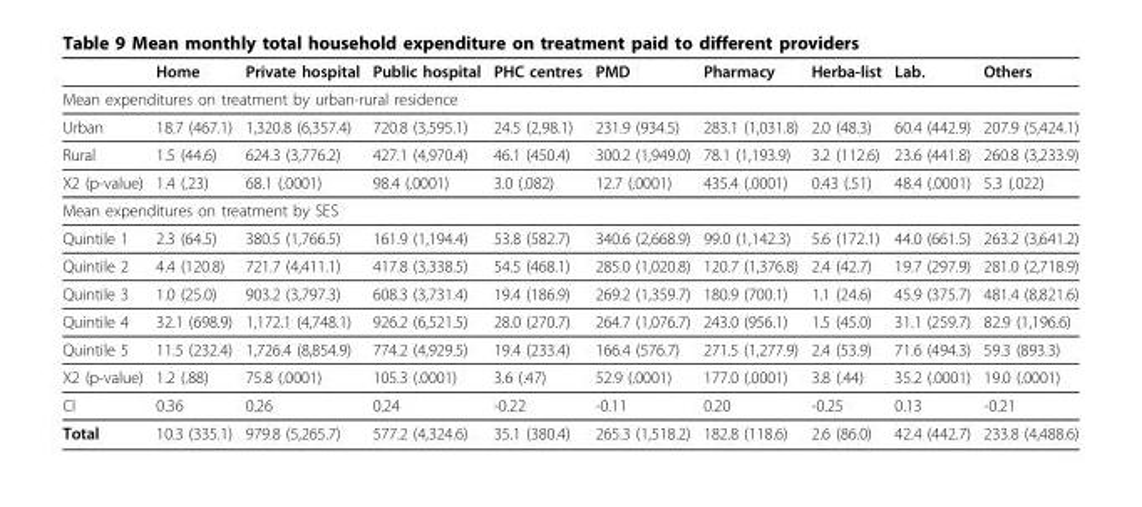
<table><thead><tr><td></td><td>Home</td><td>Private hospital</td><td>Public hospital</td><td>PHC centres</td><td>PMD</td><td>Pharmacy</td><td>Herba-list</td><td>Lab.</td><td>Others</td></tr></thead><tbody><tr><td colspan="10">Mean expenditures on treatment by urban-rural residence</td></tr><tr><td>Urban</td><td>18.7 (467.1)</td><td>1,320.8 (6,357.4)</td><td>720.8 (3,595.1)</td><td>24.5 (2,98.1)</td><td>231.9 (934.5)</td><td>283.1 (1,031.8)</td><td>2.0 (48.3)</td><td>60.4 (442.9)</td><td>207.9 (5,424.1)</td></tr><tr><td>Rural</td><td>1.5 (44.6)</td><td>624.3 (3,776.2)</td><td>427.1 (4,970.4)</td><td>46.1 (450.4)</td><td>300.2 (1,949.0)</td><td>78.1 (1,193.9)</td><td>3.2 (112.6)</td><td>23.6 (441.8)</td><td>260.8 (3,233.9)</td></tr><tr><td>X2 (p-value)</td><td>1.4 (.23)</td><td>68.1 (.0001)</td><td>98.4 (.0001)</td><td>3.0 (.082)</td><td>12.7 (.0001)</td><td>435.4 (.0001)</td><td>0.43 (.51)</td><td>48.4 (.0001)</td><td>5.3 (.022)</td></tr><tr><td colspan="10">Mean expenditures on treatment by SES</td></tr><tr><td>Quintile 1</td><td>2.3 (64.5)</td><td>380.5 (1,766.5)</td><td>161.9 (1,194.4)</td><td>53.8 (582.7)</td><td>340.6 (2,668.9)</td><td>99.0 (1,142.3)</td><td>5.6 (172.1)</td><td>44.0 (661.5)</td><td>263.2 (3,641.2)</td></tr><tr><td>Quintile 2</td><td>4.4 (120.8)</td><td>721.7 (4,411.1)</td><td>417.8 (3,338.5)</td><td>54.5 (468.1)</td><td>285.0 (1,020.8)</td><td>120.7 (1,376.8)</td><td>2.4 (42.7)</td><td>19.7 (297.9)</td><td>281.0 (2,718.9)</td></tr><tr><td>Quintile 3</td><td>1.0 (25.0)</td><td>903.2 (3,797.3)</td><td>608.3 (3,731.4)</td><td>19.4 (186.9)</td><td>269.2 (1,359.7)</td><td>180.9 (700.1)</td><td>1.1 (24.6)</td><td>45.9 (375.7)</td><td>481.4 (8,821.6)</td></tr><tr><td>Quintile 4</td><td>32.1 (698.9)</td><td>1,172.1 (4,748.1)</td><td>926.2 (6,521.5)</td><td>28.0 (270.7)</td><td>264.7 (1,076.7)</td><td>243.0 (956.1)</td><td>1.5 (45.0)</td><td>31.1 (259.7)</td><td>82.9 (1,196.6)</td></tr><tr><td>Quintile 5</td><td>11.5 (232.4)</td><td>1,726.4 (8,854.9)</td><td>774.2 (4,929.5)</td><td>19.4 (233.4)</td><td>166.4 (576.7)</td><td>271.5 (1,277.9)</td><td>2.4 (53.9)</td><td>71.6 (494.3)</td><td>59.3 (893.3)</td></tr><tr><td>X2 (p-value)</td><td>1.2 (.88)</td><td>75.8 (.0001)</td><td>105.3 (.0001)</td><td>3.6 (.47)</td><td>52.9 (.0001)</td><td>177.0 (.0001)</td><td>3.8 (.44)</td><td>35.2 (.0001)</td><td>19.0 (.0001)</td></tr><tr><td>CI</td><td>0.36</td><td>0.26</td><td>0.24</td><td>-0.22</td><td>-0.11</td><td>0.20</td><td>-0.25</td><td>0.13</td><td>-0.21</td></tr><tr><td>Total</td><td>10.3 (335.1)</td><td>979.8 (5,265.7)</td><td>577.2 (4,324.6)</td><td>35.1 (380.4)</td><td>265.3 (1,518.2)</td><td>182.8 (118.6)</td><td>2.6 (86.0)</td><td>42.4 (442.7)</td><td>233.8 (4,488.6)</td></tr></tbody></table>